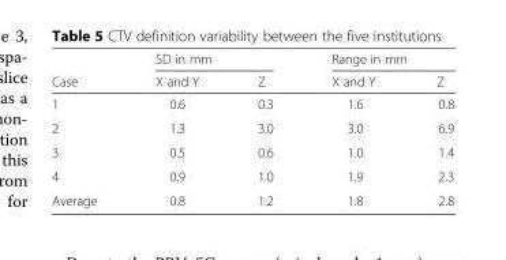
<table><thead><tr><td rowspan="2">Case</td><td colspan="2">SD in mm</td><td colspan="2">Range in mm</td></tr><tr><td>X and Y</td><td>Z</td><td>X and Y</td><td>Z</td></tr></thead><tbody><tr><td>1</td><td>0.6</td><td>0.3</td><td>1.6</td><td>0.8</td></tr><tr><td>2</td><td>1.3</td><td>3.0</td><td>3.0</td><td>6.9</td></tr><tr><td>3</td><td>0.5</td><td>0.6</td><td>1.0</td><td>1.4</td></tr><tr><td>4</td><td>0.9</td><td>1.0</td><td>1.9</td><td>2.3</td></tr><tr><td>Average</td><td>0.8</td><td>1.2</td><td>1.8</td><td>2.8</td></tr></tbody></table>